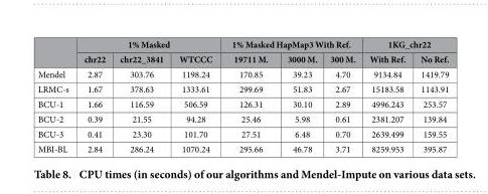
<table><thead><tr><td rowspan="2"></td><td colspan="3">1% Masked</td><td colspan="3">1% Masked HapMap3 With Ref.</td><td colspan="2">1KG_chr22</td></tr><tr><td>chr22</td><td>chr22_3841</td><td>WTCCC</td><td>19711 M.</td><td>3000 M.</td><td>300 M.</td><td>With Ref.</td><td>No Ref.</td></tr></thead><tbody><tr><td>Mendel</td><td>2.87</td><td>303.76</td><td>1198.24</td><td>170.85</td><td>39.23</td><td>4.70</td><td>9134.84</td><td>1419.79</td></tr><tr><td>LRMC-s</td><td>1.67</td><td>378.63</td><td>1333.61</td><td>299.69</td><td>51.83</td><td>2.67</td><td>15183.58</td><td>1143.91</td></tr><tr><td>BCU-1</td><td>1.66</td><td>116.59</td><td>506.59</td><td>126.31</td><td>30.10</td><td>2.89</td><td>4996.243</td><td>253.57</td></tr><tr><td>BCU-2</td><td>0.39</td><td>21.55</td><td>94.28</td><td>25.46</td><td>5.98</td><td>0.61</td><td>2381.207</td><td>139.84</td></tr><tr><td>BCU-3</td><td>0.41</td><td>23.30</td><td>101.70</td><td>27.51</td><td>6.48</td><td>0.70</td><td>2639.499</td><td>159.55</td></tr><tr><td>MBI-BL</td><td>2.84</td><td>286.24</td><td>1070.24</td><td>295.66</td><td>46.78</td><td>3.71</td><td>8259.953</td><td>395.87</td></tr></tbody></table>